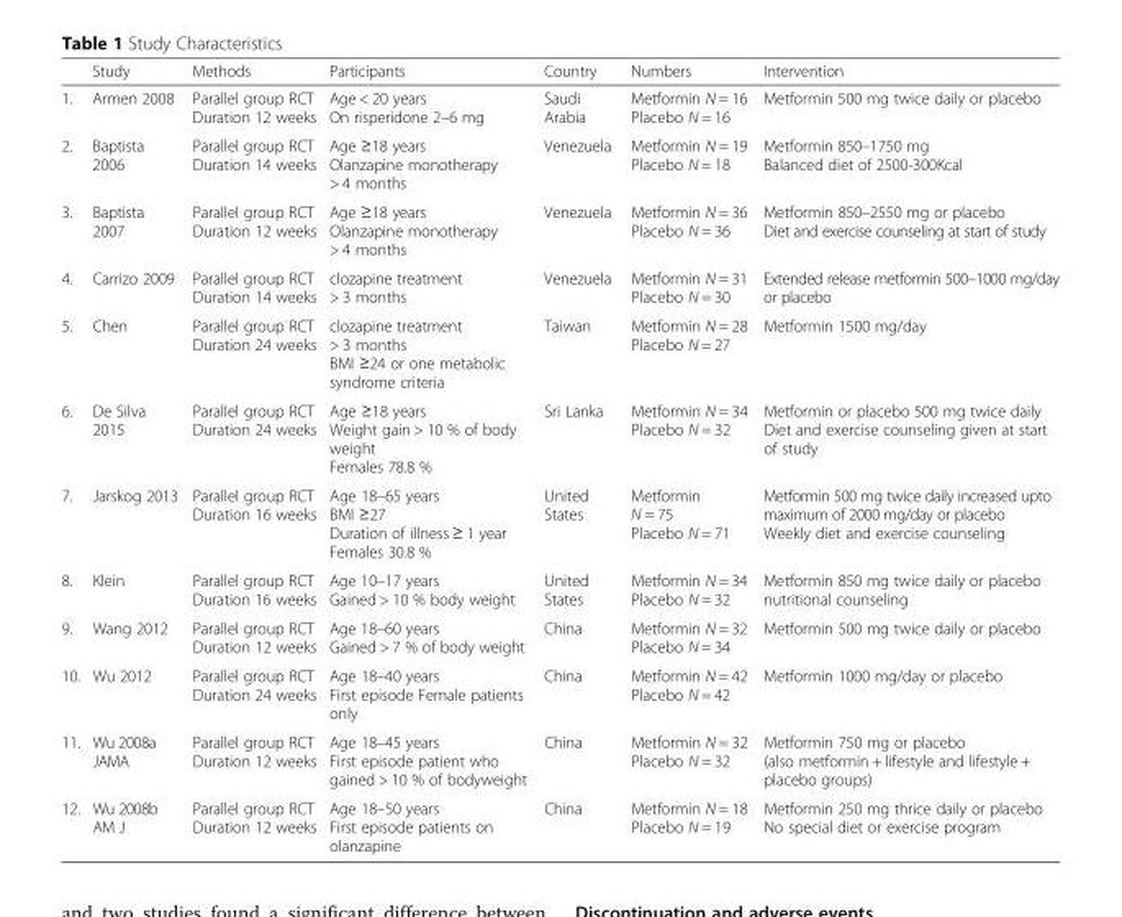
<table><thead><tr><td></td><td>Study</td><td>Methods</td><td>Participants</td><td>Country</td><td>Numbers</td><td>Intervention</td></tr></thead><tbody><tr><td>1.</td><td>Armen 2008</td><td>Parallel group RCT Duration 12 weeks</td><td>Age &lt; 20 years On risperidone 2–6 mg</td><td>Saudi Arabia</td><td>Metformin N = 16 Placebo N = 16</td><td>Metformin 500 mg twice daily or placebo</td></tr><tr><td>2.</td><td>Baptista 2006</td><td>Parallel group RCT Duration 14 weeks</td><td>Age ≥18 years Olanzapine monotherapy &gt; 4 months</td><td>Venezuela</td><td>Metformin N = 19 Placebo N = 18</td><td>Metformin 850–1750 mg Balanced diet of 2500-300Kcal</td></tr><tr><td>3.</td><td>Baptista 2007</td><td>Parallel group RCT Duration 12 weeks</td><td>Age ≥18 years Olanzapine monotherapy &gt; 4 months</td><td>Venezuela</td><td>Metformin N = 36 Placebo N = 36</td><td>Metformin 850–2550 mg or placebo Diet and exercise counseling at start of study</td></tr><tr><td>4.</td><td>Carrizo 2009</td><td>Parallel group RCT Duration 14 weeks</td><td>clozapine treatment &gt; 3 months</td><td>Venezuela</td><td>Metformin N = 31 Placebo N = 30</td><td>Extended release metformin 500–1000 mg/day or placebo</td></tr><tr><td>5.</td><td>Chen</td><td>Parallel group RCT Duration 24 weeks</td><td>clozapine treatment &gt; 3 months BMI ≥24 or one metabolic syndrome criteria</td><td>Taiwan</td><td>Metformin N = 28 Placebo N = 27</td><td>Metformin 1500 mg/day</td></tr><tr><td>6.</td><td>De Silva 2015</td><td>Parallel group RCT Duration 24 weeks</td><td>Age ≥18 years Weight gain &gt; 10 % of body weight Females 78.8 %</td><td>Sri Lanka</td><td>Metformin N = 34 Placebo N = 32</td><td>Metformin or placebo 500 mg twice daily Diet and exercise counseling given at start of study</td></tr><tr><td>7.</td><td>Jarskog 2013</td><td>Parallel group RCT Duration 16 weeks</td><td>Age 18–65 years BMI ≥27 Duration of illness ≥ 1 year Females 30.8 %</td><td>United States</td><td>Metformin N = 75 Placebo N = 71</td><td>Metformin 500 mg twice daily increased upto maximum of 2000 mg/day or placebo Weekly diet and exercise counseling</td></tr><tr><td>8.</td><td>Klein</td><td>Parallel group RCT Duration 16 weeks</td><td>Age 10–17 years Gained &gt; 10 % body weight</td><td>United States</td><td>Metformin N = 34 Placebo N = 32</td><td>Metformin 850 mg twice daily or placebo nutritional counseling</td></tr><tr><td>9.</td><td>Wang 2012</td><td>Parallel group RCT Duration 12 weeks</td><td>Age 18–60 years Gained &gt; 7 % of body weight</td><td>China</td><td>Metformin N = 32 Placebo N = 34</td><td>Metformin 500 mg twice daily or placebo</td></tr><tr><td>10.</td><td>Wu 2012</td><td>Parallel group RCT Duration 24 weeks</td><td>Age 18–40 years First episode Female patients only</td><td>China</td><td>Metformin N = 42 Placebo N = 42</td><td>Metformin 1000 mg/day or placebo</td></tr><tr><td>11.</td><td>Wu 2008a JAMA</td><td>Parallel group RCT Duration 12 weeks</td><td>Age 18–45 years First episode patient who gained &gt; 10 % of bodyweight</td><td>China</td><td>Metformin N = 32 Placebo N = 32</td><td>Metformin 750 mg or placebo (also metformin + lifestyle and lifestyle + placebo groups)</td></tr><tr><td>12.</td><td>Wu 2008b AM J</td><td>Parallel group RCT Duration 12 weeks</td><td>Age 18–50 years First episode patients on olanzapine</td><td>China</td><td>Metformin N = 18 Placebo N = 19</td><td>Metformin 250 mg thrice daily or placebo No special diet or exercise program</td></tr></tbody></table>